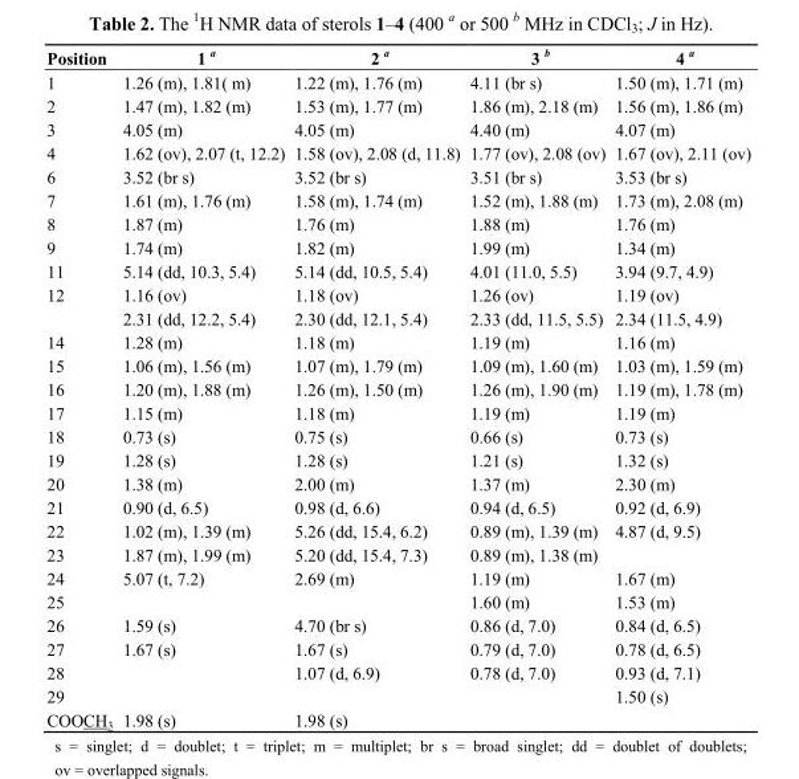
<table><thead><tr><td>Position</td><td>1 <sup>a</sup></td><td>2 <sup>a</sup></td><td>3 <sup>b</sup></td><td>4 <sup>a</sup></td></tr></thead><tbody><tr><td>1</td><td>1.26 (m), 1.81( m)</td><td>1.22 (m), 1.76 (m)</td><td>4.11 (br s)</td><td>1.50 (m), 1.71 (m)</td></tr><tr><td>2</td><td>1.47 (m), 1.82 (m)</td><td>1.53 (m), 1.77 (m)</td><td>1.86 (m), 2.18 (m)</td><td>1.56 (m), 1.86 (m)</td></tr><tr><td>3</td><td>4.05 (m)</td><td>4.05 (m)</td><td>4.40 (m)</td><td>4.07 (m)</td></tr><tr><td>4</td><td>1.62 (ov), 2.07 (t, 12.2)</td><td>1.58 (ov), 2.08 (d, 11.8)</td><td>1.77 (ov), 2.08 (ov)</td><td>1.67 (ov), 2.11 (ov)</td></tr><tr><td>6</td><td>3.52 (br s)</td><td>3.52 (br s)</td><td>3.51 (br s)</td><td>3.53 (br s)</td></tr><tr><td>7</td><td>1.61 (m), 1.76 (m)</td><td>1.58 (m), 1.74 (m)</td><td>1.52 (m), 1.88 (m)</td><td>1.73 (m), 2.08 (m)</td></tr><tr><td>8</td><td>1.87 (m)</td><td>1.76 (m)</td><td>1.88 (m)</td><td>1.76 (m)</td></tr><tr><td>9</td><td>1.74 (m)</td><td>1.82 (m)</td><td>1.99 (m)</td><td>1.34 (m)</td></tr><tr><td>11</td><td>5.14 (dd, 10.3, 5.4)</td><td>5.14 (dd, 10.5, 5.4)</td><td>4.01 (11.0, 5.5)</td><td>3.94 (9.7, 4.9)</td></tr><tr><td rowspan="2">12</td><td>1.16 (ov)</td><td>1.18 (ov)</td><td>1.26 (ov)</td><td>1.19 (ov)</td></tr><tr><td>2.31 (dd, 12.2, 5.4)</td><td>2.30 (dd, 12.1, 5.4)</td><td>2.33 (dd, 11.5, 5.5)</td><td>2.34 (11.5, 4.9)</td></tr><tr><td>14</td><td>1.28 (m)</td><td>1.18 (m)</td><td>1.19 (m)</td><td>1.16 (m)</td></tr><tr><td>15</td><td>1.06 (m), 1.56 (m)</td><td>1.07 (m), 1.79 (m)</td><td>1.09 (m), 1.60 (m)</td><td>1.03 (m), 1.59 (m)</td></tr><tr><td>16</td><td>1.20 (m), 1.88 (m)</td><td>1.26 (m), 1.50 (m)</td><td>1.26 (m), 1.90 (m)</td><td>1.19 (m), 1.78 (m)</td></tr><tr><td>17</td><td>1.15 (m)</td><td>1.18 (m)</td><td>1.19 (m)</td><td>1.19 (m)</td></tr><tr><td>18</td><td>0.73 (s)</td><td>0.75 (s)</td><td>0.66 (s)</td><td>0.73 (s)</td></tr><tr><td>19</td><td>1.28 (s)</td><td>1.28 (s)</td><td>1.21 (s)</td><td>1.32 (s)</td></tr><tr><td>20</td><td>1.38 (m)</td><td>2.00 (m)</td><td>1.37 (m)</td><td>2.30 (m)</td></tr><tr><td>21</td><td>0.90 (d, 6.5)</td><td>0.98 (d, 6.6)</td><td>0.94 (d, 6.5)</td><td>0.92 (d, 6.9)</td></tr><tr><td>22</td><td>1.02 (m), 1.39 (m)</td><td>5.26 (dd, 15.4, 6.2)</td><td>0.89 (m), 1.39 (m)</td><td>4.87 (d, 9.5)</td></tr><tr><td>23</td><td>1.87 (m), 1.99 (m)</td><td>5.20 (dd, 15.4, 7.3)</td><td>0.89 (m), 1.38 (m)</td><td></td></tr><tr><td>24</td><td>5.07 (t, 7.2)</td><td>2.69 (m)</td><td>1.19 (m)</td><td>1.67 (m)</td></tr><tr><td>25</td><td></td><td></td><td>1.60 (m)</td><td>1.53 (m)</td></tr><tr><td>26</td><td>1.59 (s)</td><td>4.70 (br s)</td><td>0.86 (d, 7.0)</td><td>0.84 (d, 6.5)</td></tr><tr><td>27</td><td>1.67 (s)</td><td>1.67 (s)</td><td>0.79 (d, 7.0)</td><td>0.78 (d, 6.5)</td></tr><tr><td>28</td><td></td><td>1.07 (d, 6.9)</td><td>0.78 (d, 7.0)</td><td>0.93 (d, 7.1)</td></tr><tr><td>29</td><td></td><td></td><td></td><td>1.50 (s)</td></tr><tr><td>COOCH<sub>3</sub></td><td>1.98 (s)</td><td>1.98 (s)</td><td></td><td></td></tr></tbody></table>